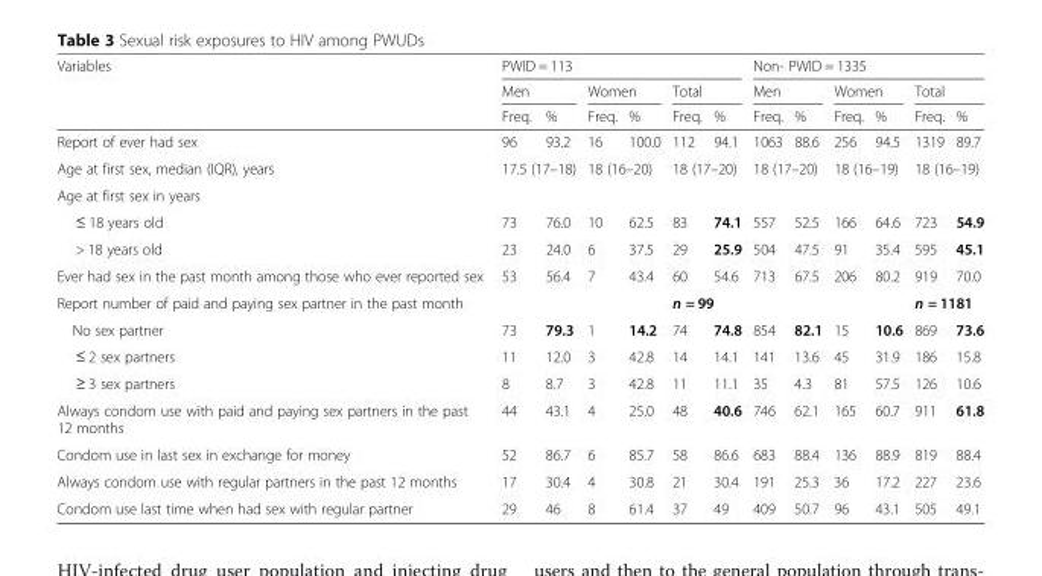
<table><thead><tr><td rowspan="3">Variables</td><td colspan="6">PWID = 113</td><td colspan="6">Non- PWID = 1335</td></tr><tr><td colspan="2">Men</td><td colspan="2">Women</td><td colspan="2">Total</td><td colspan="2">Men</td><td colspan="2">Women</td><td colspan="2">Total</td></tr><tr><td>Freq.</td><td>%</td><td>Freq.</td><td>%</td><td>Freq.</td><td>%</td><td>Freq.</td><td>%</td><td>Freq.</td><td>%</td><td>Freq.</td><td>%</td></tr></thead><tbody><tr><td>Report of ever had sex</td><td>96</td><td>93.2</td><td>16</td><td>100.0</td><td>112</td><td>94.1</td><td>1063</td><td>88.6</td><td>256</td><td>94.5</td><td>1319</td><td>89.7</td></tr><tr><td>Age at first sex, median (IQR), years</td><td colspan="2">17.5 (17–18)</td><td colspan="2">18 (16–20)</td><td colspan="2">18 (17–20)</td><td colspan="2">18 (17–20)</td><td colspan="2">18 (16–19)</td><td colspan="2">18 (16–19)</td></tr><tr><td colspan="13">Age at first sex in years</td></tr><tr><td>≤ 18 years old</td><td>73</td><td>76.0</td><td>10</td><td>62.5</td><td>83</td><td>74.1</td><td>557</td><td>52.5</td><td>166</td><td>64.6</td><td>723</td><td>54.9</td></tr><tr><td>&gt; 18 years old</td><td>23</td><td>24.0</td><td>6</td><td>37.5</td><td>29</td><td>25.9</td><td>504</td><td>47.5</td><td>91</td><td>35.4</td><td>595</td><td>45.1</td></tr><tr><td>Ever had sex in the past month among those who ever reported sex</td><td>53</td><td>56.4</td><td>7</td><td>43.4</td><td>60</td><td>54.6</td><td>713</td><td>67.5</td><td>206</td><td>80.2</td><td>919</td><td>70.0</td></tr><tr><td>Report number of paid and paying sex partner in the past month</td><td></td><td></td><td></td><td></td><td colspan="2">n = 99</td><td></td><td></td><td></td><td></td><td colspan="2">n = 1181</td></tr><tr><td>No sex partner</td><td>73</td><td>79.3</td><td>1</td><td>14.2</td><td>74</td><td>74.8</td><td>854</td><td>82.1</td><td>15</td><td>10.6</td><td>869</td><td>73.6</td></tr><tr><td>≤ 2 sex partners</td><td>11</td><td>12.0</td><td>3</td><td>42.8</td><td>14</td><td>14.1</td><td>141</td><td>13.6</td><td>45</td><td>31.9</td><td>186</td><td>15.8</td></tr><tr><td>≥ 3 sex partners</td><td>8</td><td>8.7</td><td>3</td><td>42.8</td><td>11</td><td>11.1</td><td>35</td><td>4.3</td><td>81</td><td>57.5</td><td>126</td><td>10.6</td></tr><tr><td>Always condom use with paid and paying sex partners in the past 12 months</td><td>44</td><td>43.1</td><td>4</td><td>25.0</td><td>48</td><td>40.6</td><td>746</td><td>62.1</td><td>165</td><td>60.7</td><td>911</td><td>61.8</td></tr><tr><td>Condom use in last sex in exchange for money</td><td>52</td><td>86.7</td><td>6</td><td>85.7</td><td>58</td><td>86.6</td><td>683</td><td>88.4</td><td>136</td><td>88.9</td><td>819</td><td>88.4</td></tr><tr><td>Always condom use with regular partners in the past 12 months</td><td>17</td><td>30.4</td><td>4</td><td>30.8</td><td>21</td><td>30.4</td><td>191</td><td>25.3</td><td>36</td><td>17.2</td><td>227</td><td>23.6</td></tr><tr><td>Condom use last time when had sex with regular partner</td><td>29</td><td>46</td><td>8</td><td>61.4</td><td>37</td><td>49</td><td>409</td><td>50.7</td><td>96</td><td>43.1</td><td>505</td><td>49.1</td></tr></tbody></table>